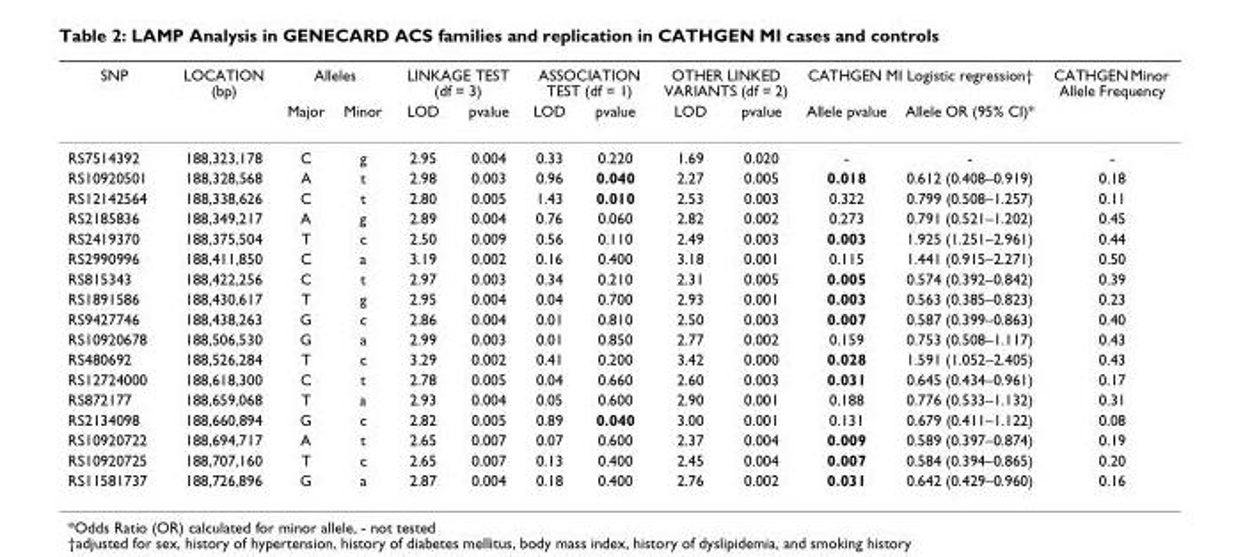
<table><thead><tr><td rowspan="2">SNP</td><td rowspan="2">LOCATION (bp)</td><td colspan="2">Alleles</td><td colspan="2">LINKAGE TEST (df = 3)</td><td colspan="2">ASSOCIATION TEST (df = 1)</td><td colspan="2">OTHER LINKED VARIANTS (df = 2)</td><td colspan="2">CATHGEN MI Logistic regression†</td><td rowspan="2">CATHGEN Minor Allele Frequency</td></tr><tr><td>Major</td><td>Minor</td><td>LOD</td><td>pvalue</td><td>LOD</td><td>pvalue</td><td>LOD</td><td>pvalue</td><td>Allele pvalue</td><td>Allele OR (95% CI)*</td></tr></thead><tbody><tr><td>RS7514392</td><td>188,323,178</td><td>C</td><td>g</td><td>2.95</td><td>0.004</td><td>0.33</td><td>0.220</td><td>1.69</td><td>0.020</td><td>-</td><td>-</td><td>-</td></tr><tr><td>RS10920501</td><td>188,328,568</td><td>A</td><td>t</td><td>2.98</td><td>0.003</td><td>0.96</td><td>0.040</td><td>2.27</td><td>0.005</td><td>0.018</td><td>0.612 (0.408–0.919)</td><td>0.18</td></tr><tr><td>RS12142564</td><td>188,338,626</td><td>C</td><td>t</td><td>2.80</td><td>0.005</td><td>1.43</td><td>0.010</td><td>2.53</td><td>0.003</td><td>0.322</td><td>0.799 (0.508–1.257)</td><td>0.11</td></tr><tr><td>RS2185836</td><td>188,349,217</td><td>A</td><td>g</td><td>2.89</td><td>0.004</td><td>0.76</td><td>0.060</td><td>2.82</td><td>0.002</td><td>0.273</td><td>0.791 (0.521–1.202)</td><td>0.45</td></tr><tr><td>RS2419370</td><td>188,375,504</td><td>T</td><td>c</td><td>2.50</td><td>0.009</td><td>0.56</td><td>0.110</td><td>2.49</td><td>0.003</td><td>0.003</td><td>1.925 (1.251–2.961)</td><td>0.44</td></tr><tr><td>RS2990996</td><td>188,411,850</td><td>C</td><td>a</td><td>3.19</td><td>0.002</td><td>0.16</td><td>0.400</td><td>3.18</td><td>0.001</td><td>0.115</td><td>1.441 (0.915–2.271)</td><td>0.50</td></tr><tr><td>RS815343</td><td>188,422,256</td><td>C</td><td>t</td><td>2.97</td><td>0.003</td><td>0.34</td><td>0.210</td><td>2.31</td><td>0.005</td><td>0.005</td><td>0.574 (0.392–0.842)</td><td>0.39</td></tr><tr><td>RS1891586</td><td>188,430,617</td><td>T</td><td>g</td><td>2.95</td><td>0.004</td><td>0.04</td><td>0.700</td><td>2.93</td><td>0.001</td><td>0.003</td><td>0.563 (0.385–0.823)</td><td>0.23</td></tr><tr><td>RS9427746</td><td>188,438,263</td><td>G</td><td>c</td><td>2.86</td><td>0.004</td><td>0.01</td><td>0.810</td><td>2.50</td><td>0.003</td><td>0.007</td><td>0.587 (0.399–0.863)</td><td>0.40</td></tr><tr><td>RS10920678</td><td>188,506,530</td><td>G</td><td>a</td><td>2.99</td><td>0.003</td><td>0.01</td><td>0.850</td><td>2.77</td><td>0.002</td><td>0.159</td><td>0.753 (0.508–1.117)</td><td>0.43</td></tr><tr><td>RS480692</td><td>188,526,284</td><td>T</td><td>c</td><td>3.29</td><td>0.002</td><td>0.41</td><td>0.200</td><td>3.42</td><td>0.000</td><td>0.028</td><td>1.591 (1.052–2.405)</td><td>0.43</td></tr><tr><td>RS12724000</td><td>188,618,300</td><td>C</td><td>t</td><td>2.78</td><td>0.005</td><td>0.04</td><td>0.660</td><td>2.60</td><td>0.003</td><td>0.031</td><td>0.645 (0.434–0.961)</td><td>0.17</td></tr><tr><td>RS872177</td><td>188,659,068</td><td>T</td><td>a</td><td>2.93</td><td>0.004</td><td>0.05</td><td>0.600</td><td>2.90</td><td>0.001</td><td>0.188</td><td>0.776 (0.533–1.132)</td><td>0.31</td></tr><tr><td>RS2134098</td><td>188,660,894</td><td>G</td><td>c</td><td>2.82</td><td>0.005</td><td>0.89</td><td>0.040</td><td>3.00</td><td>0.001</td><td>0.131</td><td>0.679 (0.411–1.122)</td><td>0.08</td></tr><tr><td>RS10920722</td><td>188,694,717</td><td>A</td><td>t</td><td>2.65</td><td>0.007</td><td>0.07</td><td>0.600</td><td>2.37</td><td>0.004</td><td>0.009</td><td>0.589 (0.397–0.874)</td><td>0.19</td></tr><tr><td>RS10920725</td><td>188,707,160</td><td>T</td><td>c</td><td>2.65</td><td>0.007</td><td>0.13</td><td>0.400</td><td>2.45</td><td>0.004</td><td>0.007</td><td>0.584 (0.394–0.865)</td><td>0.20</td></tr><tr><td>RS11581737</td><td>188,726,896</td><td>G</td><td>a</td><td>2.87</td><td>0.004</td><td>0.18</td><td>0.400</td><td>2.76</td><td>0.002</td><td>0.031</td><td>0.642 (0.429–0.960)</td><td>0.16</td></tr></tbody></table>